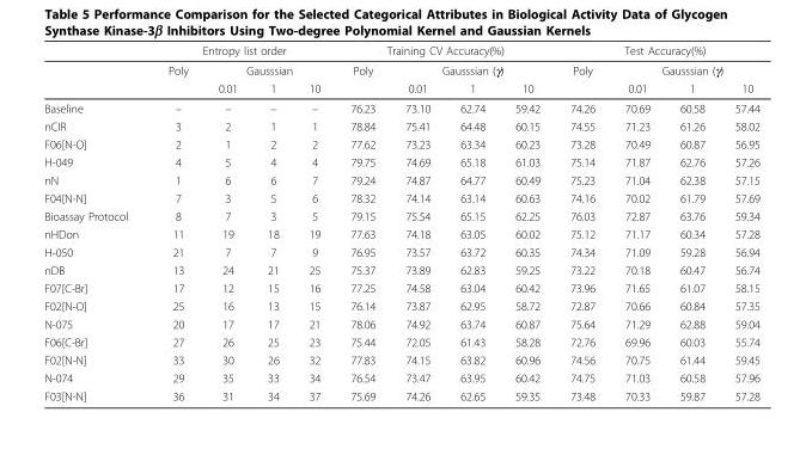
<table><thead><tr><td rowspan="3"></td><td colspan="4">Entropy list order</td><td colspan="4">Training CV Accuracy(%)</td><td colspan="4">Test Accuracy(%)</td></tr><tr><td rowspan="2">Poly</td><td colspan="3">Gausssian</td><td rowspan="2">Poly</td><td colspan="3">Gausssian (γ)</td><td rowspan="2">Poly</td><td colspan="3">Gausssian (γ)</td></tr><tr><td>0.01</td><td>1</td><td>10</td><td>0.01</td><td>1</td><td>10</td><td>0.01</td><td>1</td><td>10</td></tr></thead><tbody><tr><td>Baseline</td><td>–</td><td>–</td><td>–</td><td>–</td><td>76.23</td><td>73.10</td><td>62.74</td><td>59.42</td><td>74.26</td><td>70.69</td><td>60.58</td><td>57.44</td></tr><tr><td>nCIR</td><td>3</td><td>2</td><td>1</td><td>1</td><td>78.84</td><td>75.41</td><td>64.48</td><td>60.15</td><td>74.55</td><td>71.23</td><td>61.26</td><td>58.02</td></tr><tr><td>F06[N-O]</td><td>2</td><td>1</td><td>2</td><td>2</td><td>77.62</td><td>73.23</td><td>63.34</td><td>60.23</td><td>73.28</td><td>70.49</td><td>60.87</td><td>56.95</td></tr><tr><td>H-049</td><td>4</td><td>5</td><td>4</td><td>4</td><td>79.75</td><td>74.69</td><td>65.18</td><td>61.03</td><td>75.14</td><td>71.87</td><td>62.76</td><td>57.26</td></tr><tr><td>nN</td><td>1</td><td>6</td><td>6</td><td>7</td><td>79.24</td><td>74.87</td><td>64.77</td><td>60.49</td><td>75.23</td><td>71.04</td><td>62.38</td><td>57.15</td></tr><tr><td>F04[N-N]</td><td>7</td><td>3</td><td>5</td><td>6</td><td>78.32</td><td>74.14</td><td>63.14</td><td>60.63</td><td>74.16</td><td>70.02</td><td>61.79</td><td>57.69</td></tr><tr><td>Bioassay Protocol</td><td>8</td><td>7</td><td>3</td><td>5</td><td>79.15</td><td>75.54</td><td>65.15</td><td>62.25</td><td>76.03</td><td>72.87</td><td>63.76</td><td>59.34</td></tr><tr><td>nHDon</td><td>11</td><td>19</td><td>18</td><td>19</td><td>77.63</td><td>74.18</td><td>63.05</td><td>60.02</td><td>75.12</td><td>71.17</td><td>60.34</td><td>57.28</td></tr><tr><td>H-050</td><td>21</td><td>7</td><td>7</td><td>9</td><td>76.95</td><td>73.57</td><td>63.72</td><td>60.35</td><td>74.34</td><td>71.09</td><td>59.28</td><td>56.94</td></tr><tr><td>nDB</td><td>13</td><td>24</td><td>21</td><td>25</td><td>75.37</td><td>73.89</td><td>62.83</td><td>59.25</td><td>73.22</td><td>70.18</td><td>60.47</td><td>56.74</td></tr><tr><td>F07[C-Br]</td><td>17</td><td>12</td><td>15</td><td>16</td><td>77.25</td><td>74.58</td><td>63.04</td><td>60.42</td><td>73.96</td><td>71.65</td><td>61.07</td><td>58.15</td></tr><tr><td>F02[N-O]</td><td>25</td><td>16</td><td>13</td><td>15</td><td>76.14</td><td>73.87</td><td>62.95</td><td>58.72</td><td>72.87</td><td>70.66</td><td>60.84</td><td>57.35</td></tr><tr><td>N-075</td><td>20</td><td>17</td><td>17</td><td>21</td><td>78.06</td><td>74.92</td><td>63.74</td><td>60.87</td><td>75.64</td><td>71.29</td><td>62.88</td><td>59.04</td></tr><tr><td>F06[C-Br]</td><td>27</td><td>26</td><td>25</td><td>23</td><td>75.44</td><td>72.05</td><td>61.43</td><td>58.28</td><td>72.76</td><td>69.96</td><td>60.03</td><td>55.74</td></tr><tr><td>F02[N-N]</td><td>33</td><td>30</td><td>26</td><td>32</td><td>77.83</td><td>74.15</td><td>63.82</td><td>60.96</td><td>74.56</td><td>70.75</td><td>61.44</td><td>59.45</td></tr><tr><td>N-074</td><td>29</td><td>35</td><td>33</td><td>34</td><td>76.54</td><td>73.47</td><td>63.95</td><td>60.42</td><td>74.75</td><td>71.03</td><td>60.58</td><td>57.96</td></tr><tr><td>F03[N-N]</td><td>36</td><td>31</td><td>34</td><td>37</td><td>75.69</td><td>74.26</td><td>62.65</td><td>59.35</td><td>73.48</td><td>70.33</td><td>59.87</td><td>57.28</td></tr></tbody></table>